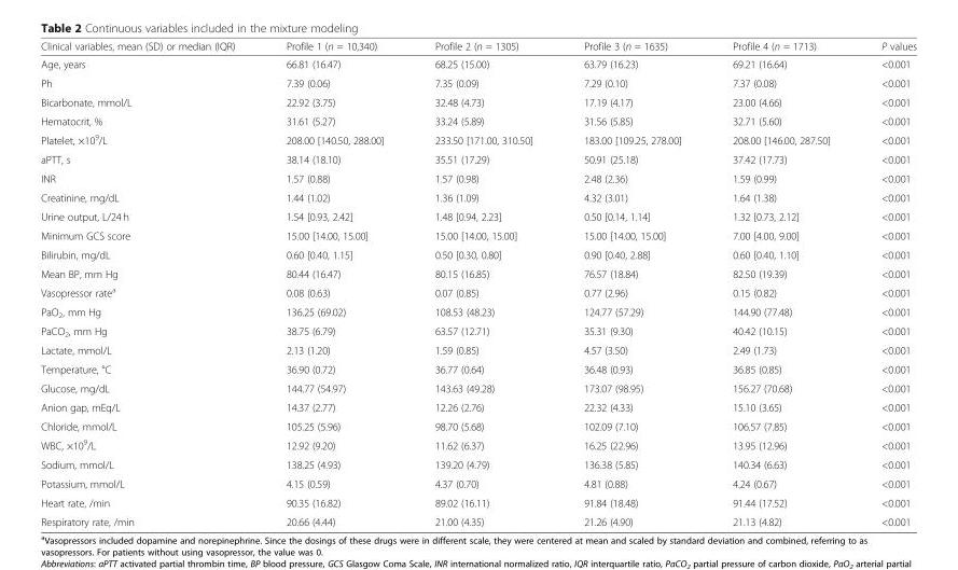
<table><thead><tr><td>Clinical variables, mean (SD) or median (IQR)</td><td>Profile 1 (n = 10,340)</td><td>Profile 2 (n = 1305)</td><td>Profile 3 (n = 1635)</td><td>Profile 4 (n = 1713)</td><td>P values</td></tr></thead><tbody><tr><td>Age, years</td><td>66.81 (16.47)</td><td>68.25 (15.00)</td><td>63.79 (16.23)</td><td>69.21 (16.64)</td><td>&lt;0.001</td></tr><tr><td>Ph</td><td>7.39 (0.06)</td><td>7.35 (0.09)</td><td>7.29 (0.10)</td><td>7.37 (0.08)</td><td>&lt;0.001</td></tr><tr><td>Bicarbonate, mmol/L</td><td>22.92 (3.75)</td><td>32.48 (4.73)</td><td>17.19 (4.17)</td><td>23.00 (4.66)</td><td>&lt;0.001</td></tr><tr><td>Hematocrit, %</td><td>31.61 (5.27)</td><td>33.24 (5.89)</td><td>31.56 (5.85)</td><td>32.71 (5.60)</td><td>&lt;0.001</td></tr><tr><td>Platelet, ×10<sup>9</sup>/L</td><td>208.00 [140.50, 288.00]</td><td>233.50 [171.00, 310.50]</td><td>183.00 [109.25, 278.00]</td><td>208.00 [146.00, 287.50]</td><td>&lt;0.001</td></tr><tr><td>aPTT, s</td><td>38.14 (18.10)</td><td>35.51 (17.29)</td><td>50.91 (25.18)</td><td>37.42 (17.73)</td><td>&lt;0.001</td></tr><tr><td>INR</td><td>1.57 (0.88)</td><td>1.57 (0.98)</td><td>2.48 (2.36)</td><td>1.59 (0.99)</td><td>&lt;0.001</td></tr><tr><td>Creatinine, mg/dL</td><td>1.44 (1.02)</td><td>1.36 (1.09)</td><td>4.32 (3.01)</td><td>1.64 (1.38)</td><td>&lt;0.001</td></tr><tr><td>Urine output, L/24 h</td><td>1.54 [0.93, 2.42]</td><td>1.48 [0.94, 2.23]</td><td>0.50 [0.14, 1.14]</td><td>1.32 [0.73, 2.12]</td><td>&lt;0.001</td></tr><tr><td>Minimum GCS score</td><td>15.00 [14.00, 15.00]</td><td>15.00 [14.00, 15.00]</td><td>15.00 [14.00, 15.00]</td><td>7.00 [4.00, 9.00]</td><td>&lt;0.001</td></tr><tr><td>Bilirubin, mg/dL</td><td>0.60 [0.40, 1.15]</td><td>0.50 [0.30, 0.80]</td><td>0.90 [0.40, 2.88]</td><td>0.60 [0.40, 1.10]</td><td>&lt;0.001</td></tr><tr><td>Mean BP, mm Hg</td><td>80.44 (16.47)</td><td>80.15 (16.85)</td><td>76.57 (18.84)</td><td>82.50 (19.39)</td><td>&lt;0.001</td></tr><tr><td>Vasopressor rate<sup>a</sup></td><td>0.08 (0.63)</td><td>0.07 (0.85)</td><td>0.77 (2.96)</td><td>0.15 (0.82)</td><td>&lt;0.001</td></tr><tr><td>PaO<sub>2</sub>, mm Hg</td><td>136.25 (69.02)</td><td>108.53 (48.23)</td><td>124.77 (57.29)</td><td>144.90 (77.48)</td><td>&lt;0.001</td></tr><tr><td>PaCO<sub>2</sub>, mm Hg</td><td>38.75 (6.79)</td><td>63.57 (12.71)</td><td>35.31 (9.30)</td><td>40.42 (10.15)</td><td>&lt;0.001</td></tr><tr><td>Lactate, mmol/L</td><td>2.13 (1.20)</td><td>1.59 (0.85)</td><td>4.57 (3.50)</td><td>2.49 (1.73)</td><td>&lt;0.001</td></tr><tr><td>Temperature, °C</td><td>36.90 (0.72)</td><td>36.77 (0.64)</td><td>36.48 (0.93)</td><td>36.85 (0.85)</td><td>&lt;0.001</td></tr><tr><td>Glucose, mg/dL</td><td>144.77 (54.97)</td><td>143.63 (49.28)</td><td>173.07 (98.95)</td><td>156.27 (70.68)</td><td>&lt;0.001</td></tr><tr><td>Anion gap, mEq/L</td><td>14.37 (2.77)</td><td>12.26 (2.76)</td><td>22.32 (4.33)</td><td>15.10 (3.65)</td><td>&lt;0.001</td></tr><tr><td>Chloride, mmol/L</td><td>105.25 (5.96)</td><td>98.70 (5.68)</td><td>102.09 (7.10)</td><td>106.57 (7.85)</td><td>&lt;0.001</td></tr><tr><td>WBC, ×10<sup>9</sup>/L</td><td>12.92 (9.20)</td><td>11.62 (6.37)</td><td>16.25 (22.96)</td><td>13.95 (12.96)</td><td>&lt;0.001</td></tr><tr><td>Sodium, mmol/L</td><td>138.25 (4.93)</td><td>139.20 (4.79)</td><td>136.38 (5.85)</td><td>140.34 (6.63)</td><td>&lt;0.001</td></tr><tr><td>Potassium, mmol/L</td><td>4.15 (0.59)</td><td>4.37 (0.70)</td><td>4.81 (0.88)</td><td>4.24 (0.67)</td><td>&lt;0.001</td></tr><tr><td>Heart rate, /min</td><td>90.35 (16.82)</td><td>89.02 (16.11)</td><td>91.84 (18.48)</td><td>91.44 (17.52)</td><td>&lt;0.001</td></tr><tr><td>Respiratory rate, /min</td><td>20.66 (4.44)</td><td>21.00 (4.35)</td><td>21.26 (4.90)</td><td>21.13 (4.82)</td><td>&lt;0.001</td></tr></tbody></table>